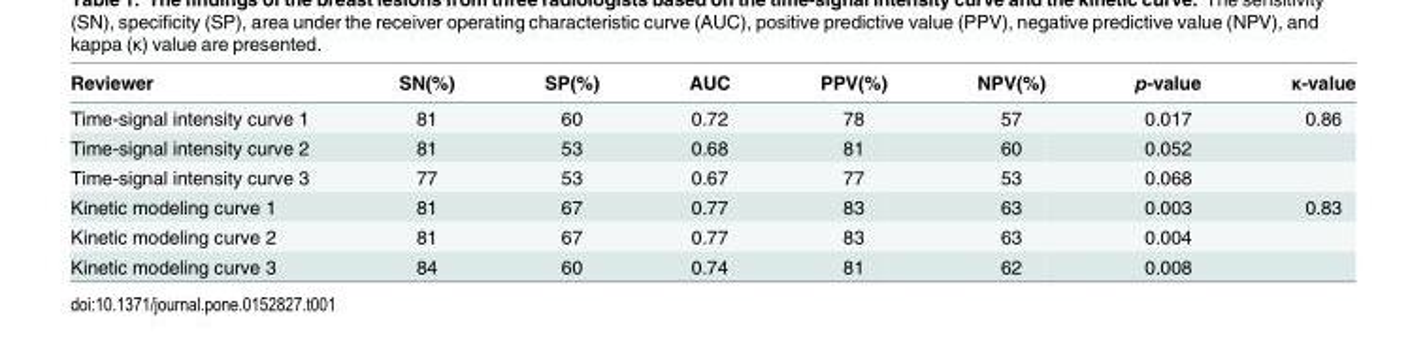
<table><thead><tr><td>Reviewer</td><td>SN(%)</td><td>SP(%)</td><td>AUC</td><td>PPV(%)</td><td>NPV(%)</td><td>p-value</td><td>κ-value</td></tr></thead><tbody><tr><td>Time-signal intensity curve 1</td><td>81</td><td>60</td><td>0.72</td><td>78</td><td>57</td><td>0.017</td><td>0.86</td></tr><tr><td>Time-signal intensity curve 2</td><td>81</td><td>53</td><td>0.68</td><td>81</td><td>60</td><td>0.052</td><td></td></tr><tr><td>Time-signal intensity curve 3</td><td>77</td><td>53</td><td>0.67</td><td>77</td><td>53</td><td>0.068</td><td></td></tr><tr><td>Kinetic modeling curve 1</td><td>81</td><td>67</td><td>0.77</td><td>83</td><td>63</td><td>0.003</td><td>0.83</td></tr><tr><td>Kinetic modeling curve 2</td><td>81</td><td>67</td><td>0.77</td><td>83</td><td>63</td><td>0.004</td><td></td></tr><tr><td>Kinetic modeling curve 3</td><td>84</td><td>60</td><td>0.74</td><td>81</td><td>62</td><td>0.008</td><td></td></tr></tbody></table>